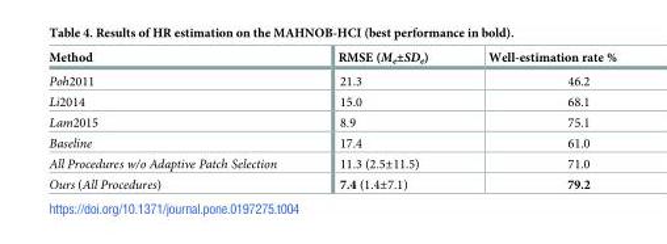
<table><thead><tr><td>Method</td><td>RMSE (M<sub>e</sub>±SD<sub>e</sub>)</td><td>Well-estimation rate %</td></tr></thead><tbody><tr><td>Poh2011</td><td>21.3</td><td>46.2</td></tr><tr><td>Li2014</td><td>15.0</td><td>68.1</td></tr><tr><td>Lam2015</td><td>8.9</td><td>75.1</td></tr><tr><td>Baseline</td><td>17.4</td><td>61.0</td></tr><tr><td>All Procedures w/o Adaptive Patch Selection</td><td>11.3 (2.5±11.5)</td><td>71.0</td></tr><tr><td>Ours (All Procedures)</td><td>7.4 (1.4±7.1)</td><td>79.2</td></tr></tbody></table>